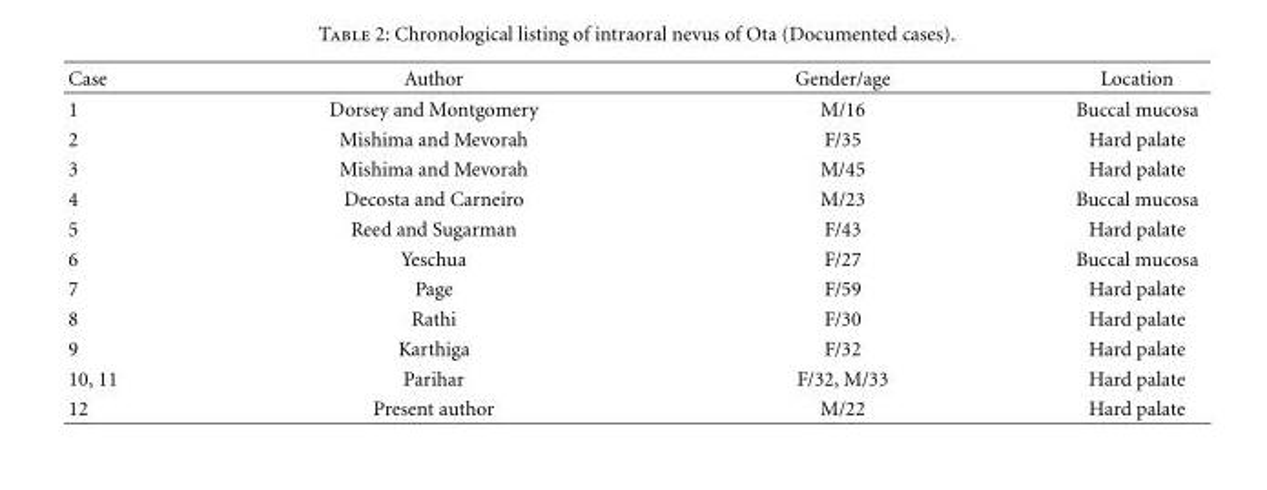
<table><thead><tr><td>Case</td><td>Author</td><td>Gender/age</td><td>Location</td></tr></thead><tbody><tr><td>1</td><td>Dorsey and Montgomery</td><td>M/16</td><td>Buccal mucosa</td></tr><tr><td>2</td><td>Mishima and Mevorah</td><td>F/35</td><td>Hard palate</td></tr><tr><td>3</td><td>Mishima and Mevorah</td><td>M/45</td><td>Hard palate</td></tr><tr><td>4</td><td>Decosta and Carneiro</td><td>M/23</td><td>Buccal mucosa</td></tr><tr><td>5</td><td>Reed and Sugarman</td><td>F/43</td><td>Hard palate</td></tr><tr><td>6</td><td>Yeschua</td><td>F/27</td><td>Buccal mucosa</td></tr><tr><td>7</td><td>Page</td><td>F/59</td><td>Hard palate</td></tr><tr><td>8</td><td>Rathi</td><td>F/30</td><td>Hard palate</td></tr><tr><td>9</td><td>Karthiga</td><td>F/32</td><td>Hard palate</td></tr><tr><td>10, 11</td><td>Parihar</td><td>F/32, M/33</td><td>Hard palate</td></tr><tr><td>12</td><td>Present author</td><td>M/22</td><td>Hard palate</td></tr></tbody></table>